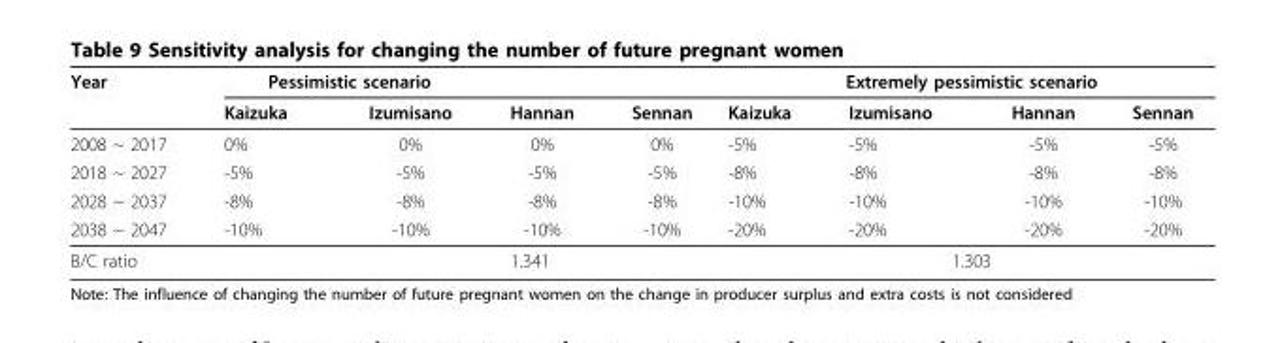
<table><thead><tr><td rowspan="2">Year</td><td colspan="2">Pessimistic scenario</td><td rowspan="2">Hannan</td><td rowspan="2">Sennan</td><td colspan="4">Extremely pessimistic scenario</td></tr><tr><td>Kaizuka</td><td>Izumisano</td><td>Kaizuka</td><td>Izumisano</td><td>Hannan</td><td>Sennan</td></tr></thead><tbody><tr><td>2008 ~ 2017</td><td>0%</td><td>0%</td><td>0%</td><td>0%</td><td>-5%</td><td>-5%</td><td>-5%</td><td>-5%</td></tr><tr><td>2018 ~ 2027</td><td>-5%</td><td>-5%</td><td>-5%</td><td>-5%</td><td>-8%</td><td>-8%</td><td>-8%</td><td>-8%</td></tr><tr><td>2028 ~ 2037</td><td>-8%</td><td>-8%</td><td>-8%</td><td>-8%</td><td>-10%</td><td>-10%</td><td>-10%</td><td>-10%</td></tr><tr><td>2038 ~ 2047</td><td>-10%</td><td>-10%</td><td>-10%</td><td>-10%</td><td>-20%</td><td>-20%</td><td>-20%</td><td>-20%</td></tr><tr><td colspan="2">B/C ratio</td><td colspan="3">1.341</td><td colspan="4">1.303</td></tr></tbody></table>